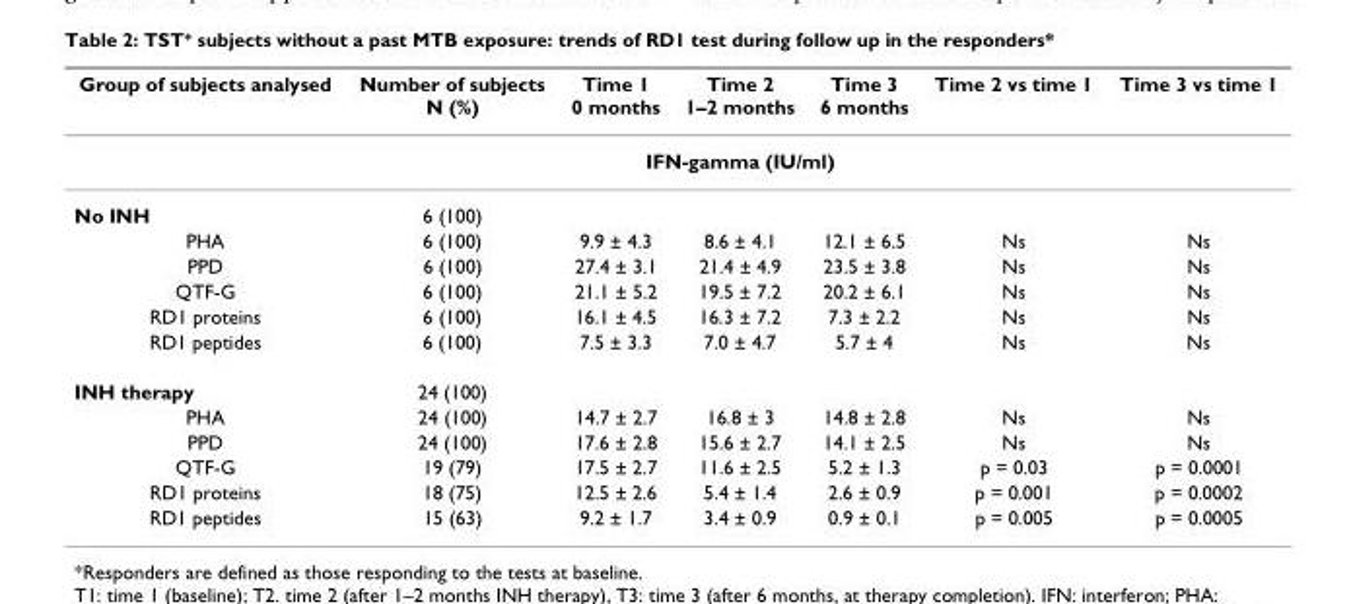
<table><thead><tr><td>Group of subjects analysed</td><td>Number of subjects N (%)</td><td>Time 1 0 months</td><td>Time 2 1–2 months</td><td>Time 3 6 months</td><td>Time 2 vs time 1</td><td>Time 3 vs time 1</td></tr></thead><tbody><tr><td></td><td></td><td colspan="3">IFN-gamma (IU/ml)</td><td></td><td></td></tr><tr><td>No INH</td><td>6 (100)</td><td></td><td></td><td></td><td></td><td></td></tr><tr><td>PHA</td><td>6 (100)</td><td>9.9 ± 4.3</td><td>8.6 ± 4.1</td><td>12.1 ± 6.5</td><td>Ns</td><td>Ns</td></tr><tr><td>PPD</td><td>6 (100)</td><td>27.4 ± 3.1</td><td>21.4 ± 4.9</td><td>23.5 ± 3.8</td><td>Ns</td><td>Ns</td></tr><tr><td>QTF-G</td><td>6 (100)</td><td>21.1 ± 5.2</td><td>19.5 ± 7.2</td><td>20.2 ± 6.1</td><td>Ns</td><td>Ns</td></tr><tr><td>RD1 proteins</td><td>6 (100)</td><td>16.1 ± 4.5</td><td>16.3 ± 7.2</td><td>7.3 ± 2.2</td><td>Ns</td><td>Ns</td></tr><tr><td>RD1 peptides</td><td>6 (100)</td><td>7.5 ± 3.3</td><td>7.0 ± 4.7</td><td>5.7 ± 4</td><td>Ns</td><td>Ns</td></tr><tr><td>INH therapy</td><td>24 (100)</td><td></td><td></td><td></td><td></td><td></td></tr><tr><td>PHA</td><td>24 (100)</td><td>14.7 ± 2.7</td><td>16.8 ± 3</td><td>14.8 ± 2.8</td><td>Ns</td><td>Ns</td></tr><tr><td>PPD</td><td>24 (100)</td><td>17.6 ± 2.8</td><td>15.6 ± 2.7</td><td>14.1 ± 2.5</td><td>Ns</td><td>Ns</td></tr><tr><td>QTF-G</td><td>19 (79)</td><td>17.5 ± 2.7</td><td>11.6 ± 2.5</td><td>5.2 ± 1.3</td><td>p = 0.03</td><td>p = 0.0001</td></tr><tr><td>RD1 proteins</td><td>18 (75)</td><td>12.5 ± 2.6</td><td>5.4 ± 1.4</td><td>2.6 ± 0.9</td><td>p = 0.001</td><td>p = 0.0002</td></tr><tr><td>RD1 peptides</td><td>15 (63)</td><td>9.2 ± 1.7</td><td>3.4 ± 0.9</td><td>0.9 ± 0.1</td><td>p = 0.005</td><td>p = 0.0005</td></tr></tbody></table>